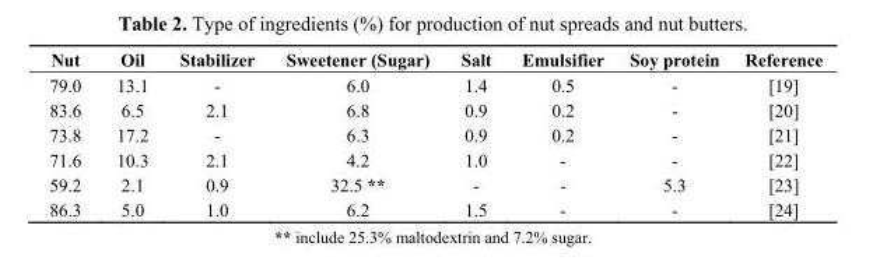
<table><thead><tr><td>Nut</td><td>Oil</td><td>Stabilizer</td><td>Sweetener (Sugar)</td><td>Salt</td><td>Emulsifier</td><td>Soy protein</td><td>Reference</td></tr></thead><tbody><tr><td>79.0</td><td>13.1</td><td>-</td><td>6.0</td><td>1.4</td><td>0.5</td><td>-</td><td>[19]</td></tr><tr><td>83.6</td><td>6.5</td><td>2.1</td><td>6.8</td><td>0.9</td><td>0.2</td><td>-</td><td>[20]</td></tr><tr><td>73.8</td><td>17.2</td><td>-</td><td>6.3</td><td>0.9</td><td>0.2</td><td>-</td><td>[21]</td></tr><tr><td>71.6</td><td>10.3</td><td>2.1</td><td>4.2</td><td>1.0</td><td>-</td><td>-</td><td>[22]</td></tr><tr><td>59.2</td><td>2.1</td><td>0.9</td><td>32.5 **</td><td>-</td><td>-</td><td>5.3</td><td>[23]</td></tr><tr><td>86.3</td><td>5.0</td><td>1.0</td><td>6.2</td><td>1.5</td><td>-</td><td>-</td><td>[24]</td></tr></tbody></table>